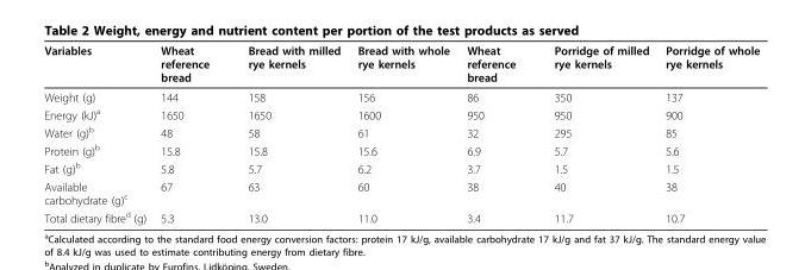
<table><tbody><tr><td>Variables</td><td>Wheat reference bread</td><td>Bread with milled rye kernels</td><td>Bread with whole rye kernels</td><td>Wheat reference bread</td><td>Porridge of milled rye kernels</td><td>Porridge of whole rye kernels</td></tr><tr><td>Weight (g)</td><td>144</td><td>158</td><td>156</td><td>86</td><td>350</td><td>137</td></tr><tr><td>Energy (kJ)<sup>a</sup></td><td>1650</td><td>1650</td><td>1600</td><td>950</td><td>950</td><td>900</td></tr><tr><td>Water (g)<sup>b</sup></td><td>48</td><td>58</td><td>61</td><td>32</td><td>295</td><td>85</td></tr><tr><td>Protein (g)<sup>b</sup></td><td>15.8</td><td>15.8</td><td>15.6</td><td>6.9</td><td>5.7</td><td>5.6</td></tr><tr><td>Fat (g)<sup>b</sup></td><td>5.8</td><td>5.7</td><td>6.2</td><td>3.7</td><td>1.5</td><td>1.5</td></tr><tr><td>Available carbohydrate (g)<sup>c</sup></td><td>67</td><td>63</td><td>60</td><td>38</td><td>40</td><td>38</td></tr><tr><td>Total dietary fibre<sup>d</sup> (g)</td><td>5.3</td><td>13.0</td><td>11.0</td><td>3.4</td><td>11.7</td><td>10.7</td></tr></tbody></table>